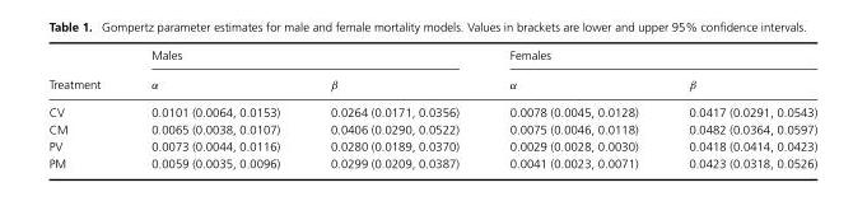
<table><thead><tr><td rowspan="2">Treatment</td><td colspan="2">Males</td><td colspan="2">Females</td></tr><tr><td>α</td><td>β</td><td>α</td><td>β</td></tr></thead><tbody><tr><td>CV</td><td>0.0101 (0.0064, 0.0153)</td><td>0.0264 (0.0171, 0.0356)</td><td>0.0078 (0.0045, 0.0128)</td><td>0.0417 (0.0291, 0.0543)</td></tr><tr><td>CM</td><td>0.0065 (0.0038, 0.0107)</td><td>0.0406 (0.0290, 0.0522)</td><td>0.0075 (0.0046, 0.0118)</td><td>0.0482 (0.0364, 0.0597)</td></tr><tr><td>PV</td><td>0.0073 (0.0044, 0.0116)</td><td>0.0280 (0.0189, 0.0370)</td><td>0.0029 (0.0028, 0.0030)</td><td>0.0418 (0.0414, 0.0423)</td></tr><tr><td>PM</td><td>0.0059 (0.0035, 0.0096)</td><td>0.0299 (0.0209, 0.0387)</td><td>0.0041 (0.0023, 0.0071)</td><td>0.0423 (0.0318, 0.0526)</td></tr></tbody></table>